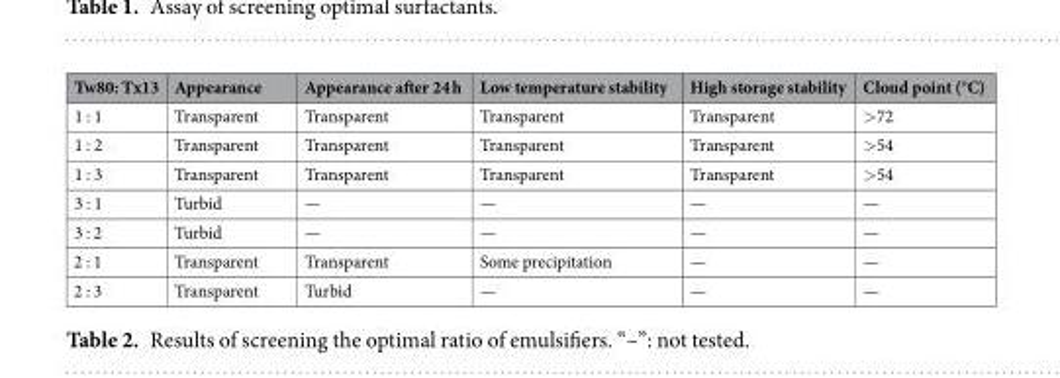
<table><thead><tr><td>Tw80: Tx13</td><td>Appearance</td><td>Appearance after 24 h</td><td>Low temperature stability</td><td>High storage stability</td><td>Cloud point (°C)</td></tr></thead><tbody><tr><td>1 : 1</td><td>Transparent</td><td>Transparent</td><td>Transparent</td><td>Transparent</td><td>&gt;72</td></tr><tr><td>1 : 2</td><td>Transparent</td><td>Transparent</td><td>Transparent</td><td>Transparent</td><td>&gt;54</td></tr><tr><td>1 : 3</td><td>Transparent</td><td>Transparent</td><td>Transparent</td><td>Transparent</td><td>&gt;54</td></tr><tr><td>3 : 1</td><td>Turbid</td><td>—</td><td>—</td><td>—</td><td>—</td></tr><tr><td>3 : 2</td><td>Turbid</td><td>—</td><td>—</td><td>—</td><td>—</td></tr><tr><td>2 : 1</td><td>Transparent</td><td>Transparent</td><td>Some precipitation</td><td>—</td><td>—</td></tr><tr><td>2 : 3</td><td>Transparent</td><td>Turbid</td><td>—</td><td>—</td><td>—</td></tr></tbody></table>